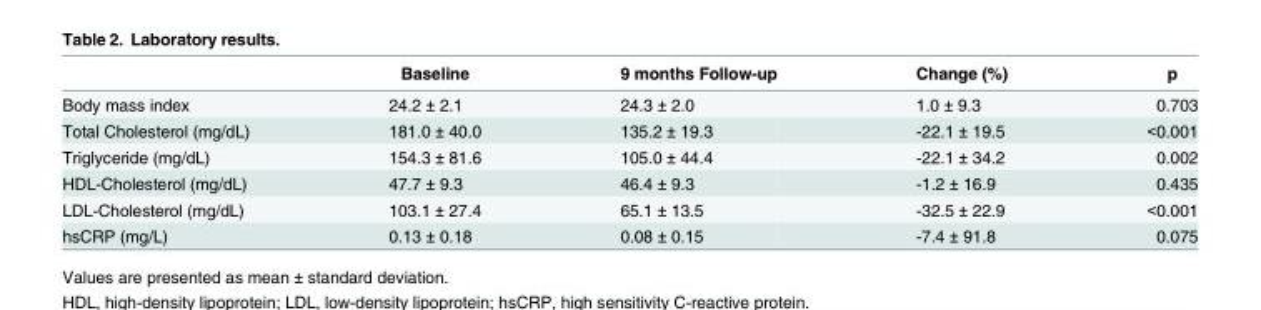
<table><thead><tr><td></td><td>Baseline</td><td>9 months Follow-up</td><td>Change (%)</td><td>p</td></tr></thead><tbody><tr><td>Body mass index</td><td>24.2 ± 2.1</td><td>24.3 ± 2.0</td><td>1.0 ± 9.3</td><td>0.703</td></tr><tr><td>Total Cholesterol (mg/dL)</td><td>181.0 ± 40.0</td><td>135.2 ± 19.3</td><td>-22.1 ± 19.5</td><td>&lt;0.001</td></tr><tr><td>Triglyceride (mg/dL)</td><td>154.3 ± 81.6</td><td>105.0 ± 44.4</td><td>-22.1 ± 34.2</td><td>0.002</td></tr><tr><td>HDL-Cholesterol (mg/dL)</td><td>47.7 ± 9.3</td><td>46.4 ± 9.3</td><td>-1.2 ± 16.9</td><td>0.435</td></tr><tr><td>LDL-Cholesterol (mg/dL)</td><td>103.1 ± 27.4</td><td>65.1 ± 13.5</td><td>-32.5 ± 22.9</td><td>&lt;0.001</td></tr><tr><td>hsCRP (mg/L)</td><td>0.13 ± 0.18</td><td>0.08 ± 0.15</td><td>-7.4 ± 91.8</td><td>0.075</td></tr></tbody></table>